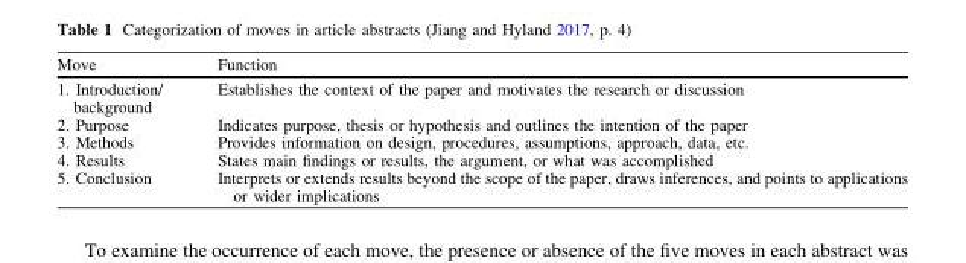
<table><thead><tr><td>Move</td><td>Function</td></tr></thead><tbody><tr><td>1. Introduction/ background</td><td>Establishes the context of the paper and motivates the research or discussion</td></tr><tr><td>2. Purpose</td><td>Indicates purpose, thesis or hypothesis and outlines the intention of the paper</td></tr><tr><td>3. Methods</td><td>Provides information on design, procedures, assumptions, approach, data, etc.</td></tr><tr><td>4. Results</td><td>States main findings or results, the argument, or what was accomplished</td></tr><tr><td>5. Conclusion</td><td>Interprets or extends results beyond the scope of the paper, draws inferences, and points to applications or wider implications</td></tr></tbody></table>